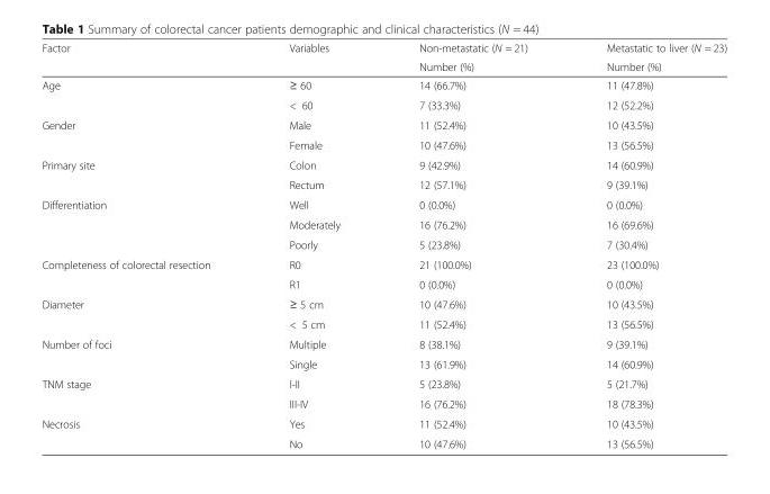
<table><thead><tr><td rowspan="2">Factor</td><td rowspan="2">Variables</td><td rowspan="2">Non-metastatic (N = 21) Number (%)</td><td rowspan="2">Metastatic to liver (N = 23) Number (%)</td></tr><tr></tr></thead><tbody><tr><td rowspan="2">Age</td><td>≥ 60</td><td>14 (66.7%)</td><td>11 (47.8%)</td></tr><tr><td>&lt; 60</td><td>7 (33.3%)</td><td>12 (52.2%)</td></tr><tr><td rowspan="2">Gender</td><td>Male</td><td>11 (52.4%)</td><td>10 (43.5%)</td></tr><tr><td>Female</td><td>10 (47.6%)</td><td>13 (56.5%)</td></tr><tr><td rowspan="2">Primary site</td><td>Colon</td><td>9 (42.9%)</td><td>14 (60.9%)</td></tr><tr><td>Rectum</td><td>12 (57.1%)</td><td>9 (39.1%)</td></tr><tr><td rowspan="3">Differentiation</td><td>Well</td><td>0 (0.0%)</td><td>0 (0.0%)</td></tr><tr><td>Moderately</td><td>16 (76.2%)</td><td>16 (69.6%)</td></tr><tr><td>Poorly</td><td>5 (23.8%)</td><td>7 (30.4%)</td></tr><tr><td rowspan="2">Completeness of colorectal resection</td><td>R0</td><td>21 (100.0%)</td><td>23 (100.0%)</td></tr><tr><td>R1</td><td>0 (0.0%)</td><td>0 (0.0%)</td></tr><tr><td rowspan="2">Diameter</td><td>≥ 5 cm</td><td>10 (47.6%)</td><td>10 (43.5%)</td></tr><tr><td>&lt; 5 cm</td><td>11 (52.4%)</td><td>13 (56.5%)</td></tr><tr><td rowspan="2">Number of foci</td><td>Multiple</td><td>8 (38.1%)</td><td>9 (39.1%)</td></tr><tr><td>Single</td><td>13 (61.9%)</td><td>14 (60.9%)</td></tr><tr><td rowspan="2">TNM stage</td><td>I-II</td><td>5 (23.8%)</td><td>5 (21.7%)</td></tr><tr><td>III-IV</td><td>16 (76.2%)</td><td>18 (78.3%)</td></tr><tr><td rowspan="2">Necrosis</td><td>Yes</td><td>11 (52.4%)</td><td>10 (43.5%)</td></tr><tr><td>No</td><td>10 (47.6%)</td><td>13 (56.5%)</td></tr></tbody></table>